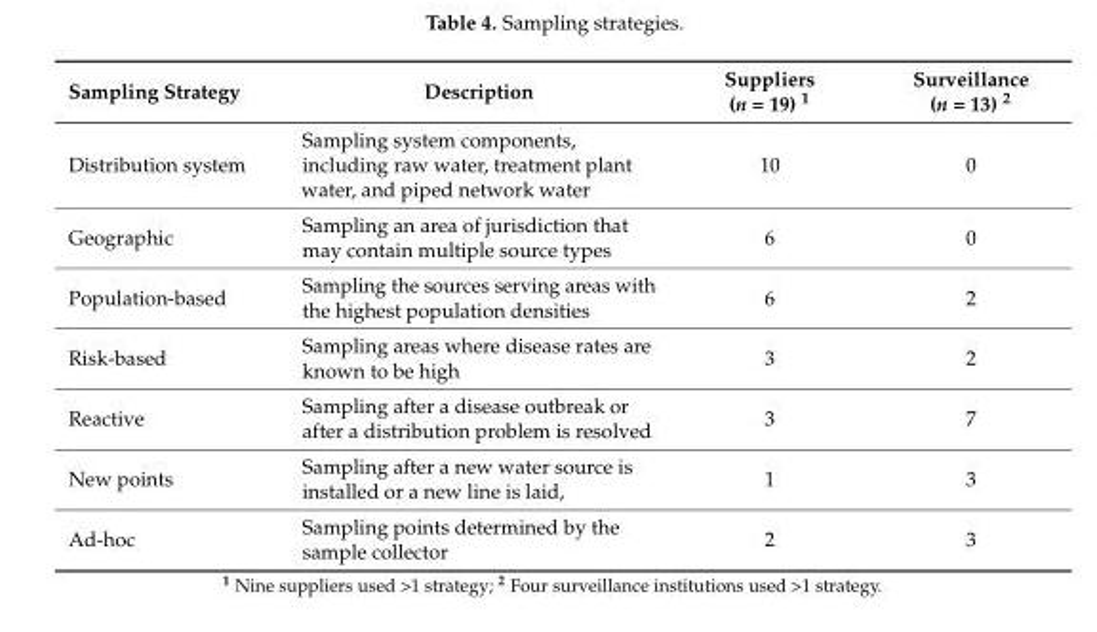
<table><thead><tr><td>Sampling Strategy</td><td>Description</td><td>Suppliers (n = 19) <sup>1</sup></td><td>Surveillance (n = 13) <sup>2</sup></td></tr></thead><tbody><tr><td>Distribution system</td><td>Sampling system components, including raw water, treatment plant water, and piped network water</td><td>10</td><td>0</td></tr><tr><td>Geographic</td><td>Sampling an area of jurisdiction that may contain multiple source types</td><td>6</td><td>0</td></tr><tr><td>Population-based</td><td>Sampling the sources serving areas with the highest population densities</td><td>6</td><td>2</td></tr><tr><td>Risk-based</td><td>Sampling areas where disease rates are known to be high</td><td>3</td><td>2</td></tr><tr><td>Reactive</td><td>Sampling after a disease outbreak or after a distribution problem is resolved</td><td>3</td><td>7</td></tr><tr><td>New points</td><td>Sampling after a new water source is installed or a new line is laid,</td><td>1</td><td>3</td></tr><tr><td>Ad-hoc</td><td>Sampling points determined by the sample collector</td><td>2</td><td>3</td></tr></tbody></table>